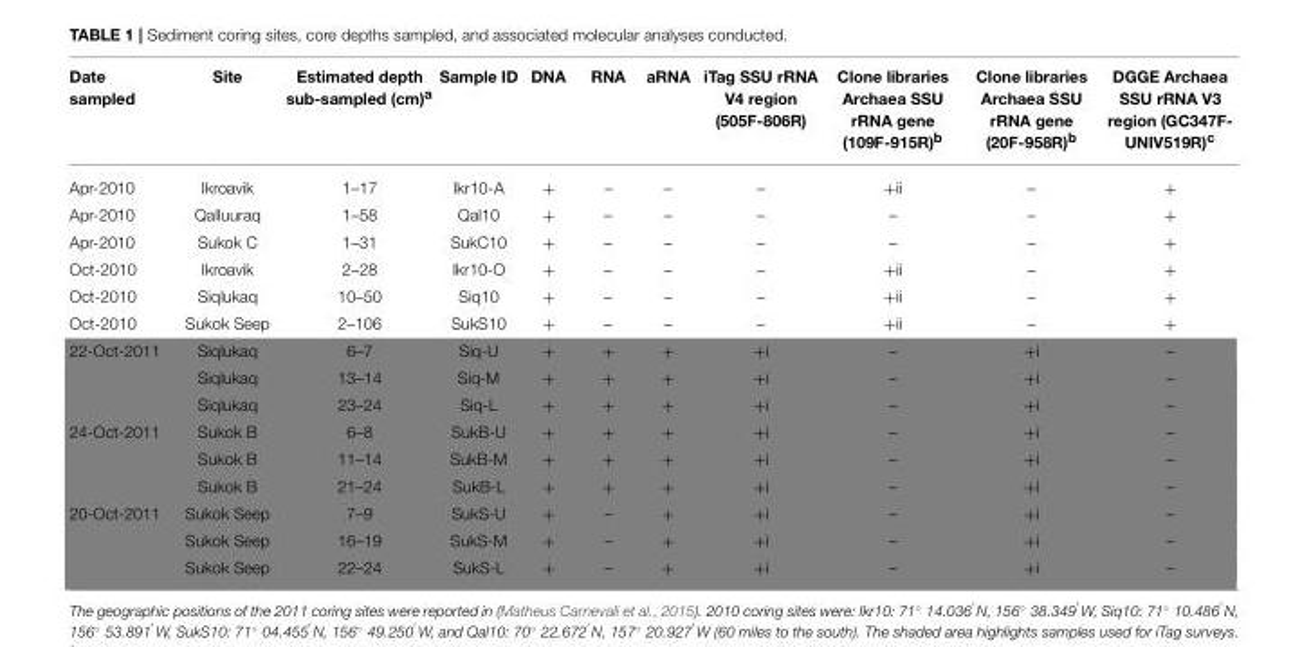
<table><thead><tr><td>Date sampled</td><td>Site</td><td>Estimated depth sub-sampled (cm)<sup>a</sup></td><td>Sample ID</td><td>DNA</td><td>RNA</td><td>aRNA</td><td>iTag SSU rRNA V4 region (505F-806R)</td><td>Clone libraries Archaea SSU rRNA gene (109F-915R)<sup>b</sup></td><td>Clone libraries Archaea SSU rRNA gene (20F-958R)<sup>b</sup></td><td>DGGE Archaea SSU rRNA V3 region (GC347F- UNIV519R)<sup>c</sup></td></tr></thead><tbody><tr><td>Apr-2010</td><td>Ikroavik</td><td>1–17</td><td>Ikr10-A</td><td>+</td><td>–</td><td>–</td><td>–</td><td>+<sup>ii</sup></td><td>–</td><td>+</td></tr><tr><td>Apr-2010</td><td>Qalluuraq</td><td>1–58</td><td>Qal10</td><td>+</td><td>–</td><td>–</td><td>–</td><td>–</td><td>–</td><td>+</td></tr><tr><td>Apr-2010</td><td>Sukok C</td><td>1–31</td><td>SukC10</td><td>+</td><td>–</td><td>–</td><td>–</td><td>–</td><td>–</td><td>+</td></tr><tr><td>Oct-2010</td><td>Ikroavik</td><td>2–28</td><td>Ikr10-O</td><td>+</td><td>–</td><td>–</td><td>–</td><td>+<sup>ii</sup></td><td>–</td><td>+</td></tr><tr><td>Oct-2010</td><td>Siqlukaq</td><td>10–50</td><td>Siq10</td><td>+</td><td>–</td><td>–</td><td>–</td><td>+<sup>ii</sup></td><td>–</td><td>+</td></tr><tr><td>Oct-2010</td><td>Sukok Seep</td><td>2–106</td><td>SukS10</td><td>+</td><td>–</td><td>–</td><td>–</td><td>+<sup>ii</sup></td><td>–</td><td>+</td></tr><tr><td rowspan="3">22-Oct-2011</td><td>Siqlukaq</td><td>6–7</td><td>Siq-U</td><td>+</td><td>+</td><td>+</td><td>+<sup>i</sup></td><td>–</td><td>+<sup>i</sup></td><td>–</td></tr><tr><td>Siqlukaq</td><td>13–14</td><td>Siq-M</td><td>+</td><td>+</td><td>+</td><td>+<sup>i</sup></td><td>–</td><td>+<sup>i</sup></td><td>–</td></tr><tr><td>Siqlukaq</td><td>23–24</td><td>Siq-L</td><td>+</td><td>+</td><td>+</td><td>+<sup>i</sup></td><td>–</td><td>+<sup>i</sup></td><td>–</td></tr><tr><td rowspan="3">24-Oct-2011</td><td>Sukok B</td><td>6–8</td><td>SukB-U</td><td>+</td><td>+</td><td>+</td><td>+<sup>i</sup></td><td>–</td><td>+<sup>i</sup></td><td>–</td></tr><tr><td>Sukok B</td><td>11–14</td><td>SukB-M</td><td>+</td><td>+</td><td>+</td><td>+<sup>i</sup></td><td>–</td><td>+<sup>i</sup></td><td>–</td></tr><tr><td>Sukok B</td><td>21–24</td><td>SukB-L</td><td>+</td><td>+</td><td>+</td><td>+<sup>i</sup></td><td>–</td><td>+<sup>i</sup></td><td>–</td></tr><tr><td rowspan="3">20-Oct-2011</td><td>Sukok Seep</td><td>7–9</td><td>SukS-U</td><td>+</td><td>–</td><td>+</td><td>+<sup>i</sup></td><td>–</td><td>+<sup>i</sup></td><td>–</td></tr><tr><td>Sukok Seep</td><td>16–19</td><td>SukS-M</td><td>+</td><td>–</td><td>+</td><td>+<sup>i</sup></td><td>–</td><td>+<sup>i</sup></td><td>–</td></tr><tr><td>Sukok Seep</td><td>22–24</td><td>SukS-L</td><td>+</td><td>–</td><td>+</td><td>+<sup>i</sup></td><td>–</td><td>+<sup>i</sup></td><td>–</td></tr></tbody></table>